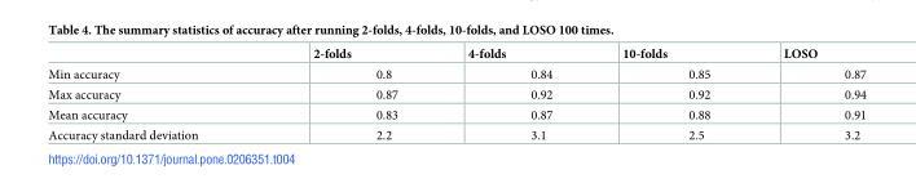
<table><thead><tr><td></td><td>2-folds</td><td>4-folds</td><td>10-folds</td><td>LOSO</td></tr></thead><tbody><tr><td>Min accuracy</td><td>0.8</td><td>0.84</td><td>0.85</td><td>0.87</td></tr><tr><td>Max accuracy</td><td>0.87</td><td>0.92</td><td>0.92</td><td>0.94</td></tr><tr><td>Mean accuracy</td><td>0.83</td><td>0.87</td><td>0.88</td><td>0.91</td></tr><tr><td>Accuracy standard deviation</td><td>2.2</td><td>3.1</td><td>2.5</td><td>3.2</td></tr></tbody></table>